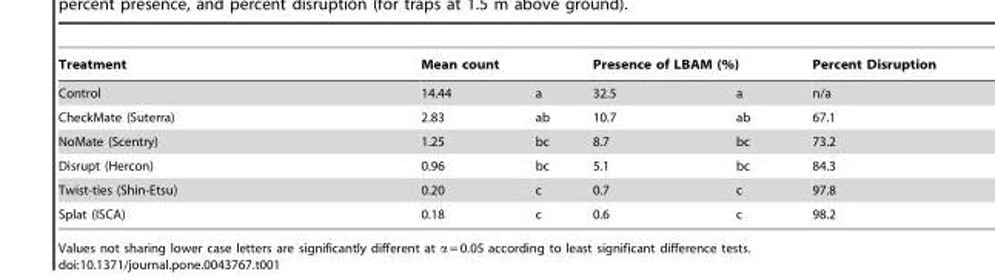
<table><thead><tr><td rowspan="2">Treatment Control</td><td colspan="2">Mean count</td><td colspan="2">Presence of LBAM (%)</td><td rowspan="2">Percent Disruption n/a</td></tr><tr><td>14.44</td><td>a</td><td>32.5</td><td>a</td></tr></thead><tbody><tr><td>CheckMate (Suterra)</td><td>2.83</td><td>ab</td><td>10.7</td><td>ab</td><td>67.1</td></tr><tr><td>NoMate (Scentry)</td><td>1.25</td><td>bc</td><td>8.7</td><td>bc</td><td>73.2</td></tr><tr><td>Disrupt (Hercon)</td><td>0.96</td><td>bc</td><td>5.1</td><td>bc</td><td>84.3</td></tr><tr><td>Twist-ties (Shin-Etsu)</td><td>0.20</td><td>c</td><td>0.7</td><td>c</td><td>97.8</td></tr><tr><td>Splat (ISCA)</td><td>0.18</td><td>c</td><td>0.6</td><td>c</td><td>98.2</td></tr></tbody></table>